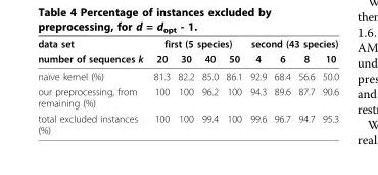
<table><thead><tr><td rowspan="2">data set number of sequences k</td><td colspan="4">first (5 species)</td><td colspan="4">second (43 species)</td></tr><tr><td>20</td><td>30</td><td>40</td><td>50</td><td>4</td><td>6</td><td>8</td><td>10</td></tr></thead><tbody><tr><td>naïve kernel (%)</td><td>81.3</td><td>82.2</td><td>85.0</td><td>86.1</td><td>92.9</td><td>68.4</td><td>56.6</td><td>50.0</td></tr><tr><td>our preprocessing, from remaining (%)</td><td>100</td><td>100</td><td>96.2</td><td>100</td><td>94.3</td><td>89.6</td><td>87.7</td><td>90.6</td></tr><tr><td>total excluded instances (%)</td><td>100</td><td>100</td><td>99.4</td><td>100</td><td>99.6</td><td>96.7</td><td>94.7</td><td>95.3</td></tr></tbody></table>